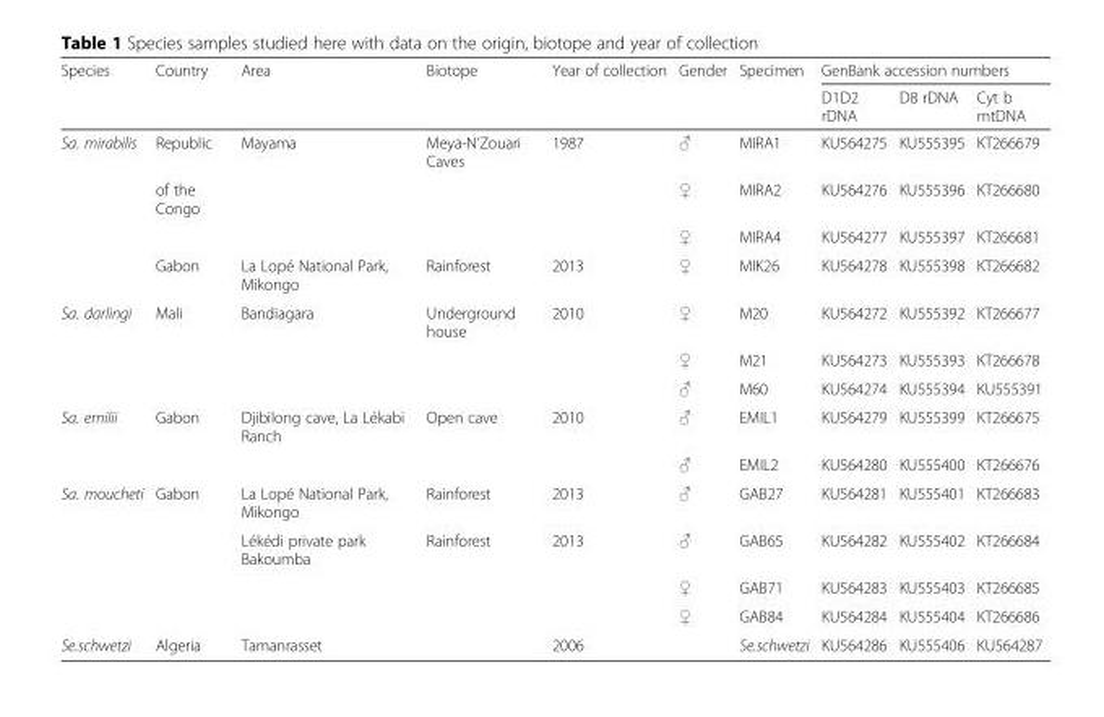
<table><thead><tr><td rowspan="2">Species</td><td rowspan="2">Country</td><td rowspan="2">Area</td><td rowspan="2">Biotope</td><td rowspan="2">Year of collection</td><td rowspan="2">Gender</td><td rowspan="2">Specimen</td><td colspan="3">GenBank accession numbers</td></tr><tr><td>D1D2 rDNA</td><td>D8 rDNA</td><td>Cyt b mtDNA</td></tr></thead><tbody><tr><td rowspan="4">Sa. mirabilis</td><td>Republic</td><td>Mayama</td><td>Meya-N’Zouari Caves</td><td>1987</td><td>♂</td><td>MIRA1</td><td>KU564275</td><td>KU555395</td><td>KT266679</td></tr><tr><td>of the Congo</td><td></td><td></td><td></td><td>♀</td><td>MIRA2</td><td>KU564276</td><td>KU555396</td><td>KT266680</td></tr><tr><td></td><td></td><td></td><td></td><td>♀</td><td>MIRA4</td><td>KU564277</td><td>KU555397</td><td>KT266681</td></tr><tr><td>Gabon</td><td>La Lopé National Park, Mikongo</td><td>Rainforest</td><td>2013</td><td>♀</td><td>MIK26</td><td>KU564278</td><td>KU555398</td><td>KT266682</td></tr><tr><td rowspan="3">Sa. darlingi</td><td>Mali</td><td>Bandiagara</td><td>Underground house</td><td>2010</td><td>♀</td><td>M20</td><td>KU564272</td><td>KU555392</td><td>KT266677</td></tr><tr><td></td><td></td><td></td><td></td><td>♀</td><td>M21</td><td>KU564273</td><td>KU555393</td><td>KT266678</td></tr><tr><td></td><td></td><td></td><td></td><td>♂</td><td>M60</td><td>KU564274</td><td>KU555394</td><td>KU555391</td></tr><tr><td rowspan="2">Sa. emilii</td><td>Gabon</td><td>Djibilong cave, La Lékabi Ranch</td><td>Open cave</td><td>2010</td><td>♂</td><td>EMIL1</td><td>KU564279</td><td>KU555399</td><td>KT266675</td></tr><tr><td></td><td></td><td></td><td></td><td>♂</td><td>EMIL2</td><td>KU564280</td><td>KU555400</td><td>KT266676</td></tr><tr><td rowspan="4">Sa. moucheti</td><td>Gabon</td><td>La Lopé National Park, Mikongo</td><td>Rainforest</td><td>2013</td><td>♂</td><td>GAB27</td><td>KU564281</td><td>KU555401</td><td>KT266683</td></tr><tr><td></td><td>Lékédi private park Bakoumba</td><td>Rainforest</td><td>2013</td><td>♂</td><td>GAB65</td><td>KU564282</td><td>KU555402</td><td>KT266684</td></tr><tr><td></td><td></td><td></td><td></td><td>♀</td><td>GAB71</td><td>KU564283</td><td>KU555403</td><td>KT266685</td></tr><tr><td></td><td></td><td></td><td></td><td>♀</td><td>GAB84</td><td>KU564284</td><td>KU555404</td><td>KT266686</td></tr><tr><td>Se.schwetzi</td><td>Algeria</td><td>Tamanrasset</td><td></td><td>2006</td><td></td><td>Se.schwetzi</td><td>KU564286</td><td>KU555406</td><td>KU564287</td></tr></tbody></table>